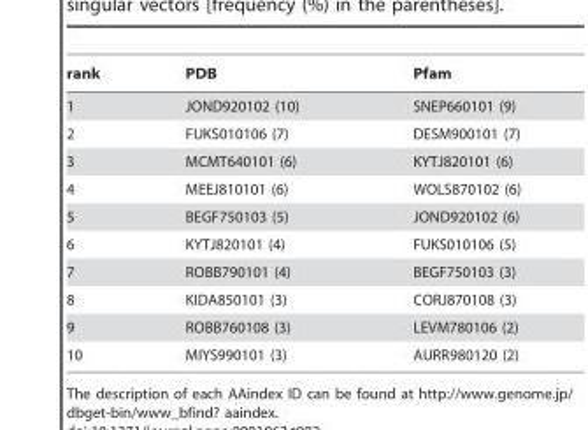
<table><thead><tr><td>rank</td><td>PDB</td><td>Pfam</td></tr></thead><tbody><tr><td>1</td><td>JOND920102 (10)</td><td>SNEP660101 (9)</td></tr><tr><td>2</td><td>FUKS010106 (7)</td><td>DESM900101 (7)</td></tr><tr><td>3</td><td>MCMT640101 (6)</td><td>KYTJ820101 (6)</td></tr><tr><td>4</td><td>MEEJ810101 (6)</td><td>WOLS870102 (6)</td></tr><tr><td>5</td><td>BEGF750103 (5)</td><td>JOND920102 (6)</td></tr><tr><td>6</td><td>KYTJ820101 (4)</td><td>FUKS010106 (5)</td></tr><tr><td>7</td><td>ROBB790101 (4)</td><td>BEGF750103 (3)</td></tr><tr><td>8</td><td>KIDA850101 (3)</td><td>CORJ870108 (3)</td></tr><tr><td>9</td><td>ROBB760108 (3)</td><td>LEVM780106 (2)</td></tr><tr><td>10</td><td>MIYS990101 (3)</td><td>AURR980120 (2)</td></tr></tbody></table>